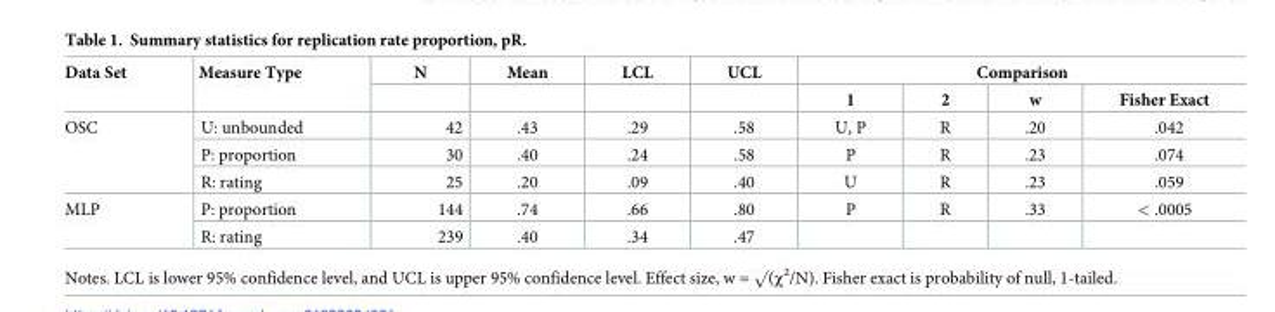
<table><thead><tr><td rowspan="2">Data Set</td><td rowspan="2">Measure Type</td><td rowspan="2">N</td><td rowspan="2">Mean</td><td rowspan="2">LCL</td><td rowspan="2">UCL</td><td colspan="4">Comparison</td></tr><tr><td>1</td><td>2</td><td>w</td><td>Fisher Exact</td></tr></thead><tbody><tr><td rowspan="3">OSC</td><td>U: unbounded</td><td>42</td><td>.43</td><td>.29</td><td>.58</td><td>U, P</td><td>R</td><td>.20</td><td>.042</td></tr><tr><td>P: proportion</td><td>30</td><td>.40</td><td>.24</td><td>.58</td><td>P</td><td>R</td><td>.23</td><td>.074</td></tr><tr><td>R: rating</td><td>25</td><td>.20</td><td>.09</td><td>.40</td><td>U</td><td>R</td><td>.23</td><td>.059</td></tr><tr><td rowspan="2">MLP</td><td>P: proportion</td><td>144</td><td>.74</td><td>.66</td><td>.80</td><td>P</td><td>R</td><td>.33</td><td>&lt; .0005</td></tr><tr><td>R: rating</td><td>239</td><td>.40</td><td>.34</td><td>.47</td><td></td><td></td><td></td><td></td></tr></tbody></table>